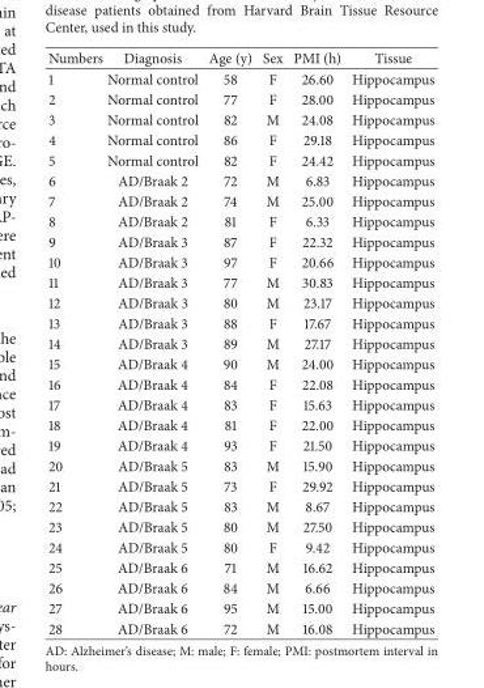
<table><thead><tr><td>Numbers</td><td>Diagnosis</td><td>Age (y)</td><td>Sex</td><td>PMI (h)</td><td>Tissue</td></tr></thead><tbody><tr><td>1</td><td>Normal control</td><td>58</td><td>F</td><td>26.60</td><td>Hippocampus</td></tr><tr><td>2</td><td>Normal control</td><td>77</td><td>F</td><td>28.00</td><td>Hippocampus</td></tr><tr><td>3</td><td>Normal control</td><td>82</td><td>M</td><td>24.08</td><td>Hippocampus</td></tr><tr><td>4</td><td>Normal control</td><td>86</td><td>F</td><td>29.18</td><td>Hippocampus</td></tr><tr><td>5</td><td>Normal control</td><td>82</td><td>F</td><td>24.42</td><td>Hippocampus</td></tr><tr><td>6</td><td>AD/Braak 2</td><td>72</td><td>M</td><td>6.83</td><td>Hippocampus</td></tr><tr><td>7</td><td>AD/Braak 2</td><td>74</td><td>M</td><td>25.00</td><td>Hippocampus</td></tr><tr><td>8</td><td>AD/Braak 2</td><td>81</td><td>F</td><td>6.33</td><td>Hippocampus</td></tr><tr><td>9</td><td>AD/Braak 3</td><td>87</td><td>F</td><td>22.32</td><td>Hippocampus</td></tr><tr><td>10</td><td>AD/Braak 3</td><td>97</td><td>F</td><td>20.66</td><td>Hippocampus</td></tr><tr><td>11</td><td>AD/Braak 3</td><td>77</td><td>M</td><td>30.83</td><td>Hippocampus</td></tr><tr><td>12</td><td>AD/Braak 3</td><td>80</td><td>M</td><td>23.17</td><td>Hippocampus</td></tr><tr><td>13</td><td>AD/Braak 3</td><td>88</td><td>F</td><td>17.67</td><td>Hippocampus</td></tr><tr><td>14</td><td>AD/Braak 3</td><td>89</td><td>M</td><td>27.17</td><td>Hippocampus</td></tr><tr><td>15</td><td>AD/Braak 4</td><td>90</td><td>M</td><td>24.00</td><td>Hippocampus</td></tr><tr><td>16</td><td>AD/Braak 4</td><td>84</td><td>F</td><td>22.08</td><td>Hippocampus</td></tr><tr><td>17</td><td>AD/Braak 4</td><td>83</td><td>F</td><td>15.63</td><td>Hippocampus</td></tr><tr><td>18</td><td>AD/Braak 4</td><td>81</td><td>F</td><td>22.00</td><td>Hippocampus</td></tr><tr><td>19</td><td>AD/Braak 4</td><td>93</td><td>F</td><td>21.50</td><td>Hippocampus</td></tr><tr><td>20</td><td>AD/Braak 5</td><td>83</td><td>M</td><td>15.90</td><td>Hippocampus</td></tr><tr><td>21</td><td>AD/Braak 5</td><td>73</td><td>F</td><td>29.92</td><td>Hippocampus</td></tr><tr><td>22</td><td>AD/Braak 5</td><td>83</td><td>M</td><td>8.67</td><td>Hippocampus</td></tr><tr><td>23</td><td>AD/Braak 5</td><td>80</td><td>M</td><td>27.50</td><td>Hippocampus</td></tr><tr><td>24</td><td>AD/Braak 5</td><td>80</td><td>F</td><td>9.42</td><td>Hippocampus</td></tr><tr><td>25</td><td>AD/Braak 6</td><td>71</td><td>M</td><td>16.62</td><td>Hippocampus</td></tr><tr><td>26</td><td>AD/Braak 6</td><td>84</td><td>M</td><td>6.66</td><td>Hippocampus</td></tr><tr><td>27</td><td>AD/Braak 6</td><td>95</td><td>M</td><td>15.00</td><td>Hippocampus</td></tr><tr><td>28</td><td>AD/Braak 6</td><td>72</td><td>M</td><td>16.08</td><td>Hippocampus</td></tr></tbody></table>